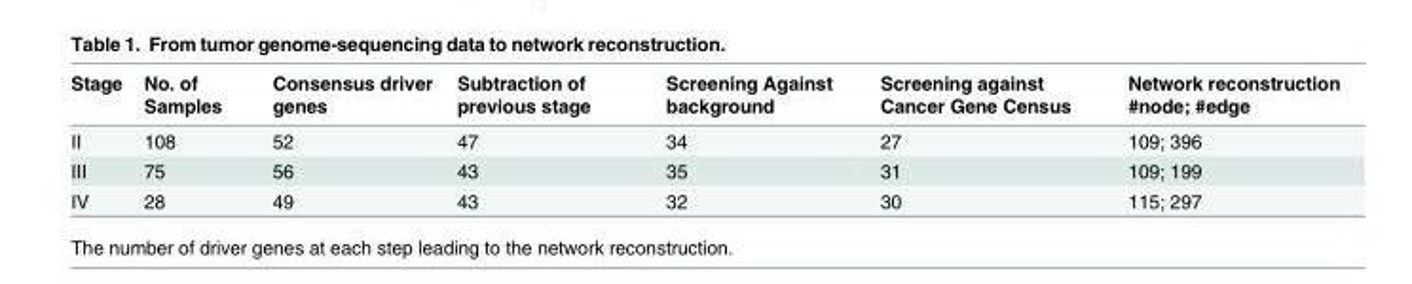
<table><thead><tr><td>Stage</td><td>No. of Samples</td><td>Consensus driver genes</td><td>Subtraction of previous stage</td><td>Screening Against background</td><td>Screening against Cancer Gene Census</td><td>Network reconstruction #node; #edge</td></tr></thead><tbody><tr><td>II</td><td>108</td><td>52</td><td>47</td><td>34</td><td>27</td><td>109; 396</td></tr><tr><td>III</td><td>75</td><td>56</td><td>43</td><td>35</td><td>31</td><td>109; 199</td></tr><tr><td>IV</td><td>28</td><td>49</td><td>43</td><td>32</td><td>30</td><td>115; 297</td></tr></tbody></table>